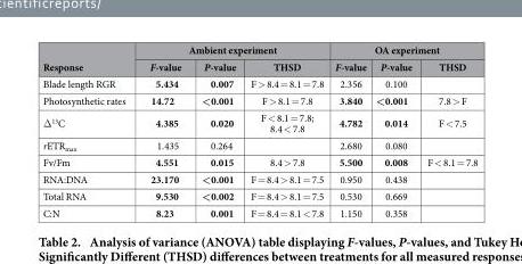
<table><thead><tr><td rowspan="2">Response</td><td colspan="3">Ambient experiment</td><td colspan="3">OA experiment</td></tr><tr><td>F-value</td><td>P-value</td><td>THSD</td><td>F-value</td><td>P-value</td><td>THSD</td></tr></thead><tbody><tr><td>Blade length RGR</td><td>5.434</td><td>0.007</td><td>F &gt; 8.4 = 8.1 = 7.8</td><td>2.356</td><td>0.100</td><td></td></tr><tr><td>Photosynthetic rates</td><td>14.72</td><td>&lt;0.001</td><td>F &gt; 8.1 = 7.8</td><td>3.840</td><td>&lt;0.001</td><td>7.8 &gt; F</td></tr><tr><td>Δ <sup>13</sup>C</td><td>4.385</td><td>0.020</td><td>F &lt; 8.1 = 7.8; 8.4 &lt; 7.8</td><td>4.782</td><td>0.014</td><td>F &lt; 7.5</td></tr><tr><td>rETR<sub>max</sub></td><td>1.435</td><td>0.264</td><td></td><td>2.680</td><td>0.080</td><td></td></tr><tr><td>Fv/Fm</td><td>4.551</td><td>0.015</td><td>8.4 &gt; 7.8</td><td>5.500</td><td>0.008</td><td>F &lt; 8.1 = 7.8</td></tr><tr><td>RNA:DNA</td><td>23.170</td><td>&lt;0.001</td><td>F = 8.4 &gt; 8.1 = 7.5</td><td>0.950</td><td>0.438</td><td></td></tr><tr><td>Total RNA</td><td>9.530</td><td>&lt;0.002</td><td>F = 8.4 &gt; 8.1 = 7.5</td><td>0.530</td><td>0.669</td><td></td></tr><tr><td>C:N</td><td>8.23</td><td>0.001</td><td>F = 8.4 = 8.1 &lt; 7.8</td><td>1.150</td><td>0.358</td><td></td></tr></tbody></table>